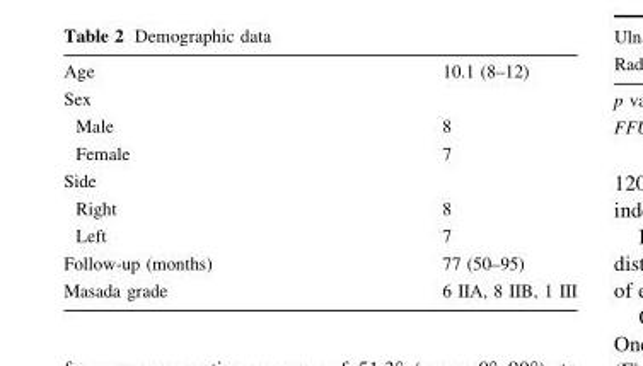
<table><tbody><tr><td>Age</td><td>10.1 (8–12)</td></tr><tr><td colspan="2">Sex</td></tr><tr><td>Male</td><td>8</td></tr><tr><td>Female</td><td>7</td></tr><tr><td colspan="2">Side</td></tr><tr><td>Right</td><td>8</td></tr><tr><td>Left</td><td>7</td></tr><tr><td>Follow-up (months)</td><td>77 (50–95)</td></tr><tr><td>Masada grade</td><td>6 IIA, 8 IIB, 1 III</td></tr></tbody></table>